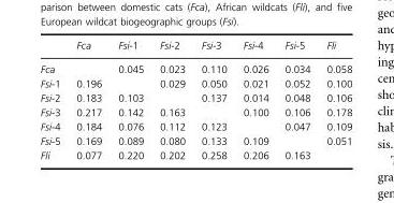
<table><thead><tr><td></td><td>Fca</td><td>Fsi-1</td><td>Fsi-2</td><td>Fsi-3</td><td>Fsi-4</td><td>Fsi-5</td><td>Fli</td></tr></thead><tbody><tr><td>Fca</td><td></td><td>0.045</td><td>0.023</td><td>0.110</td><td>0.026</td><td>0.034</td><td>0.058</td></tr><tr><td>Fsi-1</td><td>0.196</td><td></td><td>0.029</td><td>0.050</td><td>0.021</td><td>0.052</td><td>0.100</td></tr><tr><td>Fsi-2</td><td>0.183</td><td>0.103</td><td></td><td>0.137</td><td>0.014</td><td>0.048</td><td>0.106</td></tr><tr><td>Fsi-3</td><td>0.217</td><td>0.142</td><td>0.163</td><td></td><td>0.100</td><td>0.106</td><td>0.178</td></tr><tr><td>Fsi-4</td><td>0.184</td><td>0.076</td><td>0.112</td><td>0.123</td><td></td><td>0.047</td><td>0.109</td></tr><tr><td>Fsi-5</td><td>0.169</td><td>0.089</td><td>0.080</td><td>0.133</td><td>0.109</td><td></td><td>0.051</td></tr><tr><td>Fli</td><td>0.077</td><td>0.220</td><td>0.202</td><td>0.258</td><td>0.206</td><td>0.163</td><td></td></tr></tbody></table>